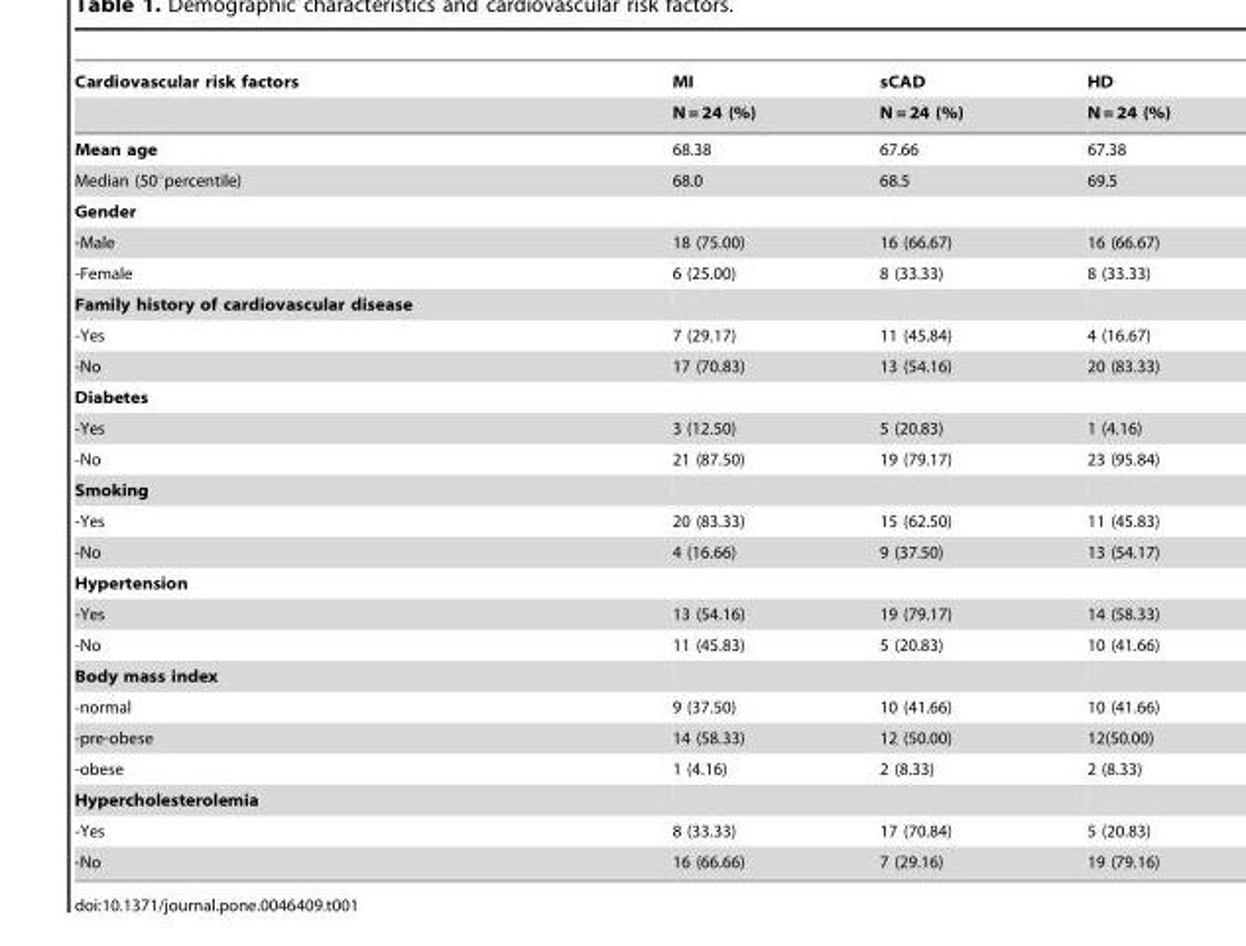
<table><thead><tr><td rowspan="2">Cardiovascular risk factors</td><td rowspan="2">MI N = 24 (%)</td><td rowspan="2">sCAD N = 24 (%)</td><td rowspan="2">HD N = 24 (%)</td></tr><tr></tr></thead><tbody><tr><td>Mean age</td><td>68.38</td><td>67.66</td><td>67.38</td></tr><tr><td>Median (50°percentile)</td><td>68.0</td><td>68.5</td><td>69.5</td></tr><tr><td colspan="4">Gender</td></tr><tr><td>-Male</td><td>18 (75.00)</td><td>16 (66.67)</td><td>16 (66.67)</td></tr><tr><td>-Female</td><td>6 (25.00)</td><td>8 (33.33)</td><td>8 (33.33)</td></tr><tr><td colspan="4">Family history of cardiovascular disease</td></tr><tr><td>-Yes</td><td>7 (29.17)</td><td>11 (45.84)</td><td>4 (16.67)</td></tr><tr><td>-No</td><td>17 (70.83)</td><td>13 (54.16)</td><td>20 (83.33)</td></tr><tr><td colspan="4">Diabetes</td></tr><tr><td>-Yes</td><td>3 (12.50)</td><td>5 (20.83)</td><td>1 (4.16)</td></tr><tr><td>-No</td><td>21 (87.50)</td><td>19 (79.17)</td><td>23 (95.84)</td></tr><tr><td colspan="4">Smoking</td></tr><tr><td>-Yes</td><td>20 (83.33)</td><td>15 (62.50)</td><td>11 (45.83)</td></tr><tr><td>-No</td><td>4 (16.66)</td><td>9 (37.50)</td><td>13 (54.17)</td></tr><tr><td colspan="4">Hypertension</td></tr><tr><td>-Yes</td><td>13 (54.16)</td><td>19 (79.17)</td><td>14 (58.33)</td></tr><tr><td>-No</td><td>11 (45.83)</td><td>5 (20.83)</td><td>10 (41.66)</td></tr><tr><td colspan="4">Body mass index</td></tr><tr><td>-normal</td><td>9 (37.50)</td><td>10 (41.66)</td><td>10 (41.66)</td></tr><tr><td>-pre-obese</td><td>14 (58.33)</td><td>12 (50.00)</td><td>12(50.00)</td></tr><tr><td>-obese</td><td>1 (4.16)</td><td>2 (8.33)</td><td>2 (8.33)</td></tr><tr><td colspan="4">Hypercholesterolemia</td></tr><tr><td>-Yes</td><td>8 (33.33)</td><td>17 (70.84)</td><td>5 (20.83)</td></tr><tr><td>-No</td><td>16 (66.66)</td><td>7 (29.16)</td><td>19 (79.16)</td></tr></tbody></table>